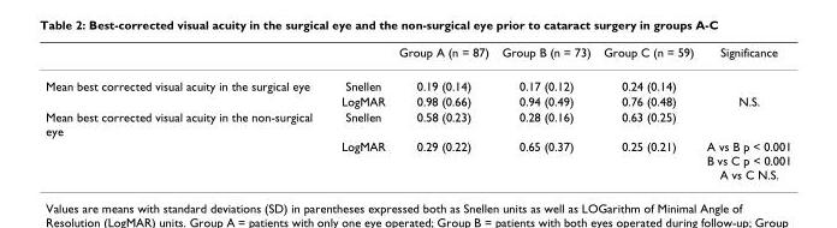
<table><thead><tr><td></td><td></td><td>Group A (n = 87)</td><td>Group B (n = 73)</td><td>Group C (n = 59)</td><td>Significance</td></tr></thead><tbody><tr><td rowspan="2">Mean best corrected visual acuity in the surgical eye</td><td>Snellen</td><td>0.19 (0.14)</td><td>0.17 (0.12)</td><td>0.24 (0.14)</td><td></td></tr><tr><td>LogMAR</td><td>0.98 (0.66)</td><td>0.94 (0.49)</td><td>0.76 (0.48)</td><td>N.S.</td></tr><tr><td rowspan="2">Mean best corrected visual acuity in the non-surgical eye</td><td>Snellen</td><td>0.58 (0.23)</td><td>0.28 (0.16)</td><td>0.63 (0.25)</td><td></td></tr><tr><td>LogMAR</td><td>0.29 (0.22)</td><td>0.65 (0.37)</td><td>0.25 (0.21)</td><td>A vs B p &lt; 0.001 B vs C p &lt; 0.001 A vs C N.S.</td></tr></tbody></table>